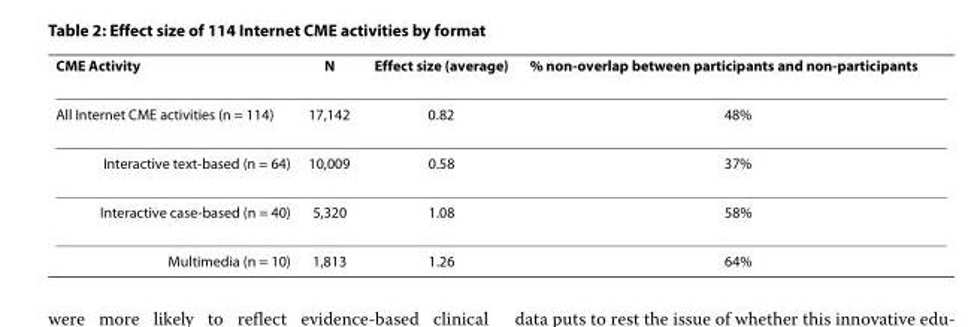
<table><thead><tr><td>CME Activity</td><td>N</td><td>Effect size (average)</td><td>% non-overlap between participants and non-participants</td></tr></thead><tbody><tr><td>All Internet CME activities (n = 114)</td><td>17,142</td><td>0.82</td><td>48%</td></tr><tr><td>Interactive text-based (n = 64)</td><td>10,009</td><td>0.58</td><td>37%</td></tr><tr><td>Interactive case-based (n = 40)</td><td>5,320</td><td>1.08</td><td>58%</td></tr><tr><td>Multimedia (n = 10)</td><td>1,813</td><td>1.26</td><td>64%</td></tr></tbody></table>